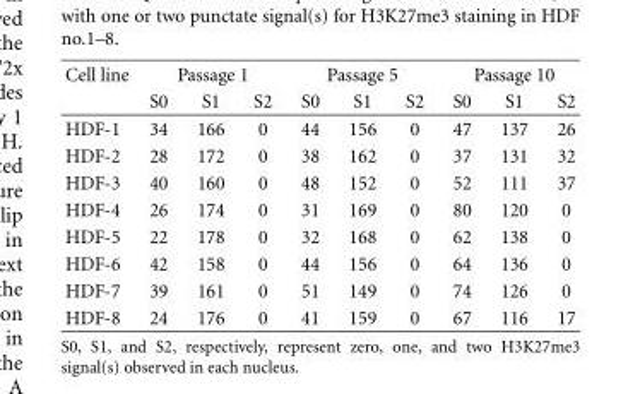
<table><thead><tr><td rowspan="2">Cell line</td><td colspan="3">Passage 1</td><td colspan="3">Passage 5</td><td colspan="3">Passage 10</td></tr><tr><td>S0</td><td>S1</td><td>S2</td><td>S0</td><td>S1</td><td>S2</td><td>S0</td><td>S1</td><td>S2</td></tr></thead><tbody><tr><td>HDF-1</td><td>34</td><td>166</td><td>0</td><td>44</td><td>156</td><td>0</td><td>47</td><td>137</td><td>26</td></tr><tr><td>HDF-2</td><td>28</td><td>172</td><td>0</td><td>38</td><td>162</td><td>0</td><td>37</td><td>131</td><td>32</td></tr><tr><td>HDF-3</td><td>40</td><td>160</td><td>0</td><td>48</td><td>152</td><td>0</td><td>52</td><td>111</td><td>37</td></tr><tr><td>HDF-4</td><td>26</td><td>174</td><td>0</td><td>31</td><td>169</td><td>0</td><td>80</td><td>120</td><td>0</td></tr><tr><td>HDF-5</td><td>22</td><td>178</td><td>0</td><td>32</td><td>168</td><td>0</td><td>62</td><td>138</td><td>0</td></tr><tr><td>HDF-6</td><td>42</td><td>158</td><td>0</td><td>44</td><td>156</td><td>0</td><td>64</td><td>136</td><td>0</td></tr><tr><td>HDF-7</td><td>39</td><td>161</td><td>0</td><td>51</td><td>149</td><td>0</td><td>74</td><td>126</td><td>0</td></tr><tr><td>HDF-8</td><td>24</td><td>176</td><td>0</td><td>41</td><td>159</td><td>0</td><td>67</td><td>116</td><td>17</td></tr></tbody></table>